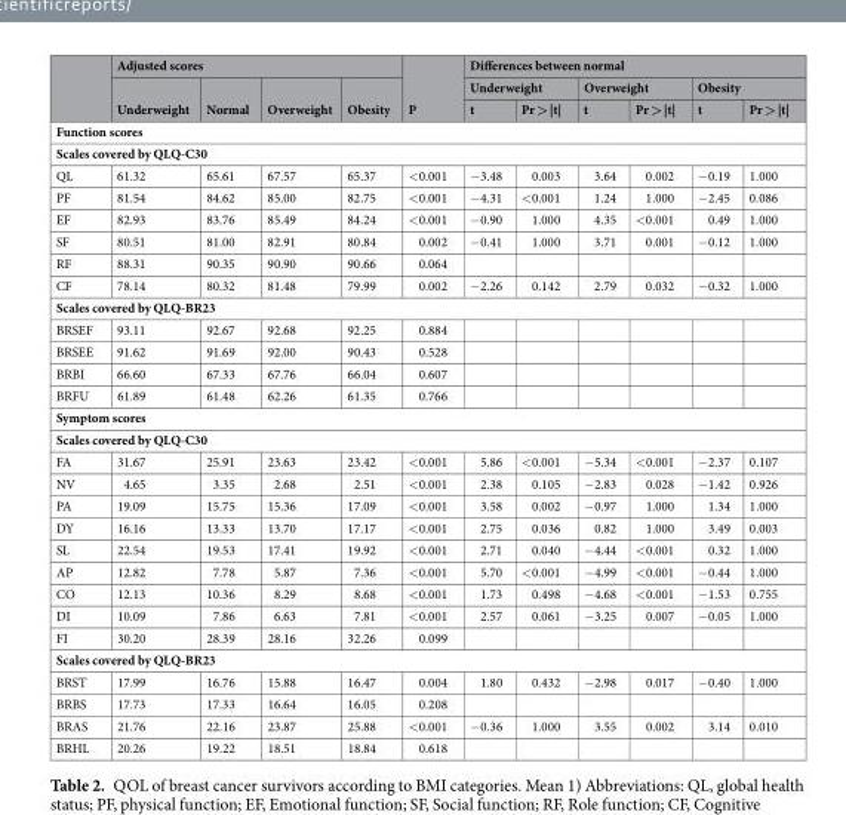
<table><thead><tr><td rowspan="3"></td><td colspan="4">Adjusted scores</td><td rowspan="3">P</td><td colspan="6">Differences between normal</td></tr><tr><td rowspan="2">Underweight</td><td rowspan="2">Normal</td><td rowspan="2">Overweight</td><td rowspan="2">Obesity</td><td colspan="2">Underweight</td><td colspan="2">Overweight</td><td colspan="2">Obesity</td></tr><tr><td>t</td><td>Pr &gt; |t|</td><td>t</td><td>Pr &gt; |t|</td><td>t</td><td>Pr &gt; |t|</td></tr></thead><tbody><tr><td colspan="12">Function scores</td></tr><tr><td colspan="12">Scales covered by QLQ-C30</td></tr><tr><td>QL</td><td>61.32</td><td>65.61</td><td>67.57</td><td>65.37</td><td>&lt;0.001</td><td>−3.48</td><td>0.003</td><td>3.64</td><td>0.002</td><td>−0.19</td><td>1.000</td></tr><tr><td>PF</td><td>81.54</td><td>84.62</td><td>85.00</td><td>82.75</td><td>&lt;0.001</td><td>−4.31</td><td>&lt;0.001</td><td>1.24</td><td>1.000</td><td>−2.45</td><td>0.086</td></tr><tr><td>EF</td><td>82.93</td><td>83.76</td><td>85.49</td><td>84.24</td><td>&lt;0.001</td><td>−0.90</td><td>1.000</td><td>4.35</td><td>&lt;0.001</td><td>0.49</td><td>1.000</td></tr><tr><td>SF</td><td>80.51</td><td>81.00</td><td>82.91</td><td>80.84</td><td>0.002</td><td>−0.41</td><td>1.000</td><td>3.71</td><td>0.001</td><td>−0.12</td><td>1.000</td></tr><tr><td>RF</td><td>88.31</td><td>90.35</td><td>90.90</td><td>90.66</td><td>0.064</td><td></td><td></td><td></td><td></td><td></td><td></td></tr><tr><td>CF</td><td>78.14</td><td>80.32</td><td>81.48</td><td>79.99</td><td>0.002</td><td>−2.26</td><td>0.142</td><td>2.79</td><td>0.032</td><td>−0.32</td><td>1.000</td></tr><tr><td colspan="12">Scales covered by QLQ-BR23</td></tr><tr><td>BRSEF</td><td>93.11</td><td>92.67</td><td>92.68</td><td>92.25</td><td>0.884</td><td></td><td></td><td></td><td></td><td></td><td></td></tr><tr><td>BRSEE</td><td>91.62</td><td>91.69</td><td>92.00</td><td>90.43</td><td>0.528</td><td></td><td></td><td></td><td></td><td></td><td></td></tr><tr><td>BRBI</td><td>66.60</td><td>67.33</td><td>67.76</td><td>66.04</td><td>0.607</td><td></td><td></td><td></td><td></td><td></td><td></td></tr><tr><td>BRFU</td><td>61.89</td><td>61.48</td><td>62.26</td><td>61.35</td><td>0.766</td><td></td><td></td><td></td><td></td><td></td><td></td></tr><tr><td colspan="12">Symptom scores</td></tr><tr><td colspan="12">Scales covered by QLQ-C30</td></tr><tr><td>FA</td><td>31.67</td><td>25.91</td><td>23.63</td><td>23.42</td><td>&lt;0.001</td><td>5.86</td><td>&lt;0.001</td><td>−5.34</td><td>&lt;0.001</td><td>−2.37</td><td>0.107</td></tr><tr><td>NV</td><td>4.65</td><td>3.35</td><td>2.68</td><td>2.51</td><td>&lt;0.001</td><td>2.38</td><td>0.105</td><td>−2.83</td><td>0.028</td><td>−1.42</td><td>0.926</td></tr><tr><td>PA</td><td>19.09</td><td>15.75</td><td>15.36</td><td>17.09</td><td>&lt;0.001</td><td>3.58</td><td>0.002</td><td>−0.97</td><td>1.000</td><td>1.34</td><td>1.000</td></tr><tr><td>DY</td><td>16.16</td><td>13.33</td><td>13.70</td><td>17.17</td><td>&lt;0.001</td><td>2.75</td><td>0.036</td><td>0.82</td><td>1.000</td><td>3.49</td><td>0.003</td></tr><tr><td>SL</td><td>22.54</td><td>19.53</td><td>17.41</td><td>19.92</td><td>&lt;0.001</td><td>2.71</td><td>0.040</td><td>−4.44</td><td>&lt;0.001</td><td>0.32</td><td>1.000</td></tr><tr><td>AP</td><td>12.82</td><td>7.78</td><td>5.87</td><td>7.36</td><td>&lt;0.001</td><td>5.70</td><td>&lt;0.001</td><td>−4.99</td><td>&lt;0.001</td><td>−0.44</td><td>1.000</td></tr><tr><td>CO</td><td>12.13</td><td>10.36</td><td>8.29</td><td>8.68</td><td>&lt;0.001</td><td>1.73</td><td>0.498</td><td>−4.68</td><td>&lt;0.001</td><td>−1.53</td><td>0.755</td></tr><tr><td>DI</td><td>10.09</td><td>7.86</td><td>6.63</td><td>7.81</td><td>&lt;0.001</td><td>2.57</td><td>0.061</td><td>−3.25</td><td>0.007</td><td>−0.05</td><td>1.000</td></tr><tr><td>FI</td><td>30.20</td><td>28.39</td><td>28.16</td><td>32.26</td><td>0.099</td><td></td><td></td><td></td><td></td><td></td><td></td></tr><tr><td colspan="12">Scales covered by QLQ-BR23</td></tr><tr><td>BRST</td><td>17.99</td><td>16.76</td><td>15.88</td><td>16.47</td><td>0.004</td><td>1.80</td><td>0.432</td><td>−2.98</td><td>0.017</td><td>−0.40</td><td>1.000</td></tr><tr><td>BRBS</td><td>17.73</td><td>17.33</td><td>16.64</td><td>16.05</td><td>0.208</td><td></td><td></td><td></td><td></td><td></td><td></td></tr><tr><td>BRAS</td><td>21.76</td><td>22.16</td><td>23.87</td><td>25.88</td><td>&lt;0.001</td><td>−0.36</td><td>1.000</td><td>3.55</td><td>0.002</td><td>3.14</td><td>0.010</td></tr><tr><td>BRHL</td><td>20.26</td><td>19.22</td><td>18.51</td><td>18.84</td><td>0.618</td><td></td><td></td><td></td><td></td><td></td><td></td></tr></tbody></table>